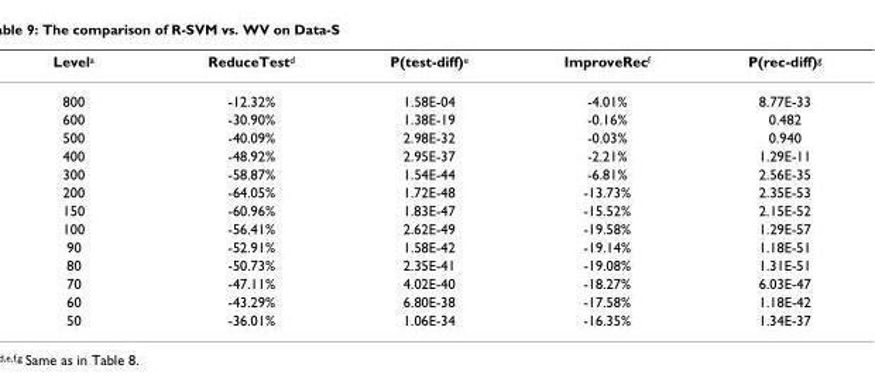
<table><thead><tr><td>Levela</td><td>ReduceTestd</td><td>P(test-diff)e</td><td>ImproveRecf</td><td>P(rec-diff)g</td></tr></thead><tbody><tr><td>800</td><td>-12.32%</td><td>1.58E-04</td><td>-4.01%</td><td>8.77E-33</td></tr><tr><td>600</td><td>-30.90%</td><td>1.38E-19</td><td>-0.16%</td><td>0.482</td></tr><tr><td>500</td><td>-40.09%</td><td>2.98E-32</td><td>-0.03%</td><td>0.940</td></tr><tr><td>400</td><td>-48.92%</td><td>2.95E-37</td><td>-2.21%</td><td>1.29E-11</td></tr><tr><td>300</td><td>-58.87%</td><td>1.54E-44</td><td>-6.81%</td><td>2.56E-35</td></tr><tr><td>200</td><td>-64.05%</td><td>1.72E-48</td><td>-13.73%</td><td>2.35E-53</td></tr><tr><td>150</td><td>-60.96%</td><td>1.83E-47</td><td>-15.52%</td><td>2.15E-52</td></tr><tr><td>100</td><td>-56.41%</td><td>2.62E-49</td><td>-19.58%</td><td>1.29E-57</td></tr><tr><td>90</td><td>-52.91%</td><td>1.58E-42</td><td>-19.14%</td><td>1.18E-51</td></tr><tr><td>80</td><td>-50.73%</td><td>2.35E-41</td><td>-19.08%</td><td>1.31E-51</td></tr><tr><td>70</td><td>-47.11%</td><td>4.02E-40</td><td>-18.27%</td><td>6.03E-47</td></tr><tr><td>60</td><td>-43.29%</td><td>6.80E-38</td><td>-17.58%</td><td>1.18E-42</td></tr><tr><td>50</td><td>-36.01%</td><td>1.06E-34</td><td>-16.35%</td><td>1.34E-37</td></tr></tbody></table>